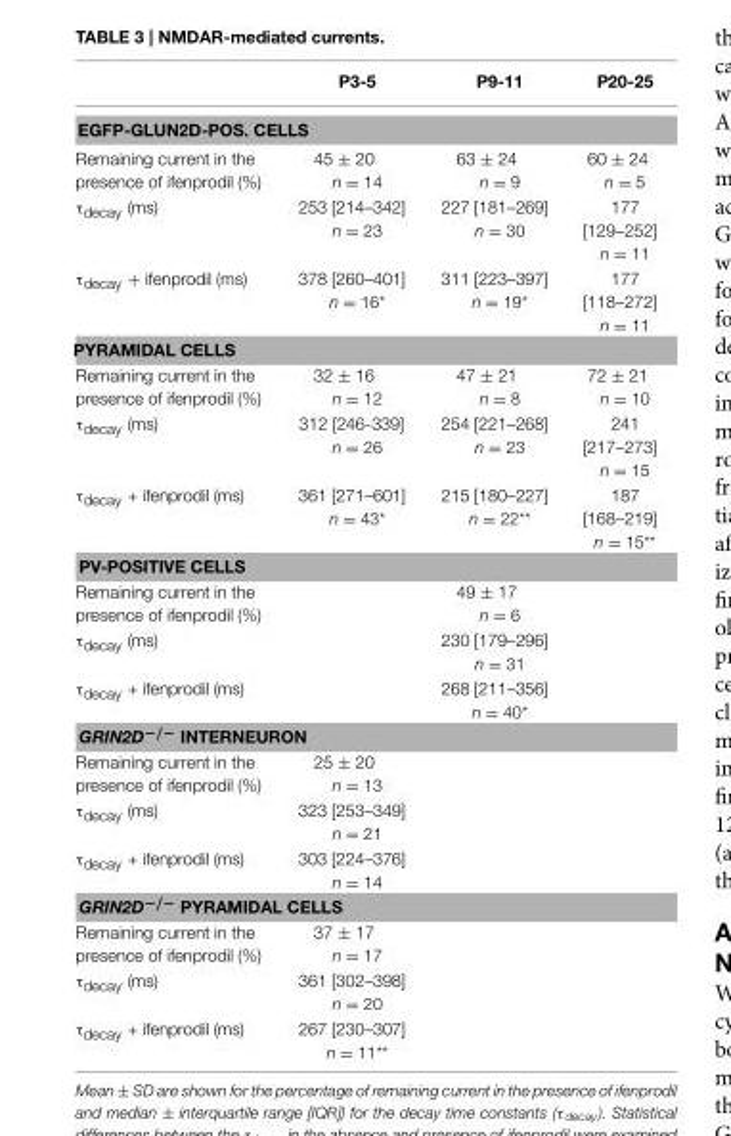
<table><thead><tr><td></td><td>P3-5</td><td>P9-11</td><td>P20-25</td></tr></thead><tbody><tr><td colspan="4">EGFP-GLUN2D-POS. CELLS</td></tr><tr><td>Remaining current in the presence of ifenprodil (%)</td><td>45 ± 20 n = 14</td><td>63 ± 24 n = 9</td><td>60 ± 24 n = 5</td></tr><tr><td>τ<sub>decay</sub> (ms)</td><td>253 [214–342] n = 23</td><td>227 [181–269] n = 30</td><td>177 [129–252] n = 11</td></tr><tr><td>τ<sub>decay</sub> + ifenprodil (ms)</td><td>378 [260–401] n = 16*</td><td>311 [223–397] n = 19*</td><td>177 [118–272] n = 11</td></tr><tr><td colspan="4">PYRAMIDAL CELLS</td></tr><tr><td>Remaining current in the presence of ifenprodil (%)</td><td>32 ± 16 n = 12</td><td>47 ± 21 n = 8</td><td>72 ± 21 n = 10</td></tr><tr><td>τ<sub>decay</sub> (ms)</td><td>312 [246-339] n = 26</td><td>254 [221–268] n = 23</td><td>241 [217–273] n = 15</td></tr><tr><td>τ<sub>decay</sub> + ifenprodil (ms)</td><td>361 [271–601] n = 43*</td><td>215 [180–227] n = 22**</td><td>187 [168–219] n = 15**</td></tr><tr><td colspan="4">PV-POSITIVE CELLS</td></tr><tr><td>Remaining current in the presence of ifenprodil (%)</td><td></td><td>49 ± 17 n = 6</td><td></td></tr><tr><td>τ<sub>decay</sub> (ms)</td><td></td><td>230 [179–296] n = 31</td><td></td></tr><tr><td>τ<sub>decay</sub> + ifenprodil (ms)</td><td></td><td>268 [211–356] n = 40*</td><td></td></tr><tr><td colspan="4">GRIN2D<sup>−/−</sup> INTERNEURON</td></tr><tr><td>Remaining current in the presence of ifenprodil (%)</td><td>25 ± 20 n = 13</td><td></td><td></td></tr><tr><td>τ<sub>decay</sub> (ms)</td><td>323 [253–349] n = 21</td><td></td><td></td></tr><tr><td>τ<sub>decay</sub> + ifenprodil (ms)</td><td>303 [224–376] n = 14</td><td></td><td></td></tr><tr><td colspan="4">GRIN2D<sup>−/−</sup> PYRAMIDAL CELLS</td></tr><tr><td>Remaining current in the presence of ifenprodil (%)</td><td>37 ± 17 n = 17</td><td></td><td></td></tr><tr><td>τ<sub>decay</sub> (ms)</td><td>361 [302–398] n = 20</td><td></td><td></td></tr><tr><td>τ<sub>decay</sub> + ifenprodil (ms)</td><td>267 [230–307] n = 11**</td><td></td><td></td></tr></tbody></table>